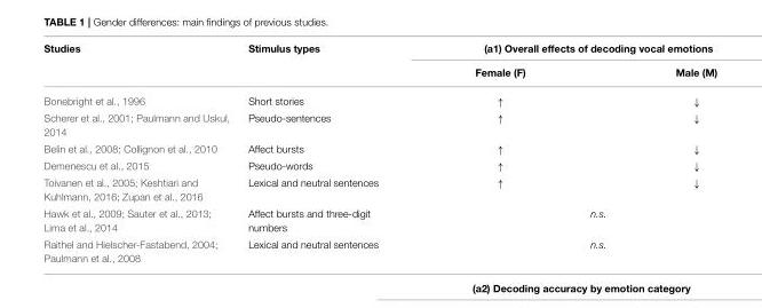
<table><thead><tr><td rowspan="2">Studies</td><td rowspan="2">Stimulus types</td><td colspan="2">(a1) Overall effects of decoding vocal emotions</td></tr><tr><td>Female (F)</td><td>Male (M)</td></tr></thead><tbody><tr><td>Bonebright et al., 1996</td><td>Short stories</td><td>↑</td><td>↓</td></tr><tr><td>Scherer et al., 2001; Paulmann and Uskul, 2014</td><td>Pseudo-sentences</td><td>↑</td><td>↓</td></tr><tr><td>Belin et al., 2008; Collignon et al., 2010</td><td>Affect bursts</td><td>↑</td><td>↓</td></tr><tr><td>Demenescu et al., 2015</td><td>Pseudo-words</td><td>↑</td><td>↓</td></tr><tr><td>Toivanen et al., 2005; Keshtiari and Kuhlmann, 2016; Zupan et al., 2016</td><td>Lexical and neutral sentences</td><td>↑</td><td>↓</td></tr><tr><td>Hawk et al., 2009; Sauter et al., 2013; Lima et al., 2014</td><td>Affect bursts and three-digit numbers</td><td colspan="2">n.s.</td></tr><tr><td>Raithel and Hielscher-Fastabend, 2004; Paulmann et al., 2008</td><td>Lexical and neutral sentences</td><td colspan="2">n.s.</td></tr></tbody></table>